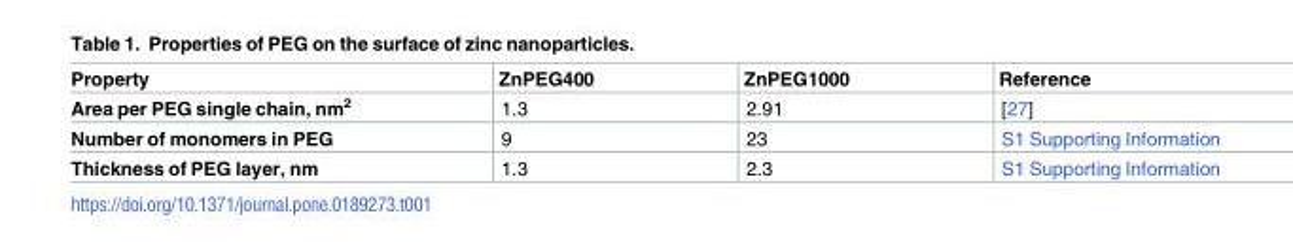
<table><thead><tr><td>Property</td><td>ZnPEG400</td><td>ZnPEG1000</td><td>Reference</td></tr></thead><tbody><tr><td>Area per PEG single chain, nm<sup>2</sup></td><td>1.3</td><td>2.91</td><td>[27]</td></tr><tr><td>Number of monomers in PEG</td><td>9</td><td>23</td><td>S1 Supporting Information</td></tr><tr><td>Thickness of PEG layer, nm</td><td>1.3</td><td>2.3</td><td>S1 Supporting Information</td></tr></tbody></table>